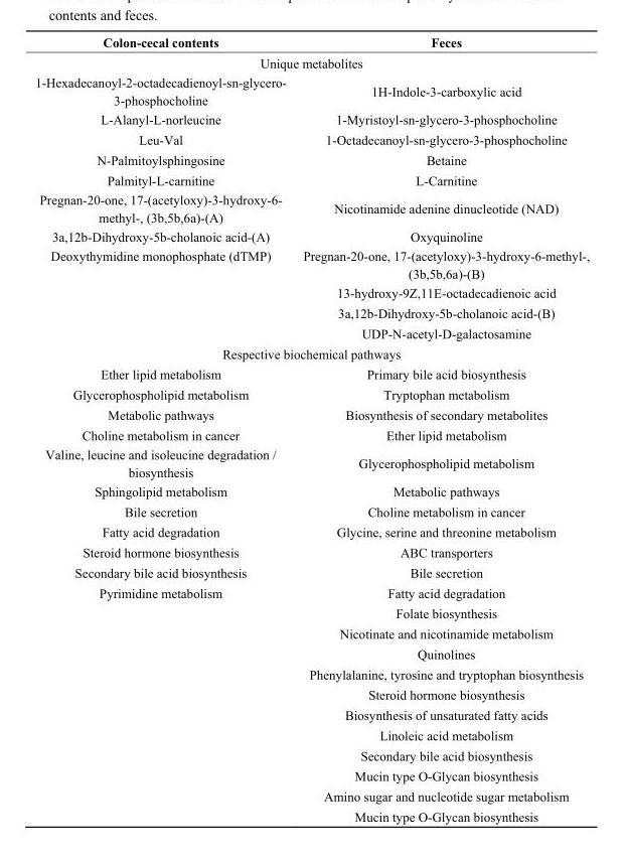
<table><thead><tr><td>Colon-cecal contents</td><td>Feces</td></tr></thead><tbody><tr><td colspan="2">Unique metabolites</td></tr><tr><td>1-Hexadecanoyl-2-octadecadienoyl-sn-glycero- 3-phosphocholine</td><td>1H-Indole-3-carboxylic acid</td></tr><tr><td>L-Alanyl-L-norleucine</td><td>1-Myristoyl-sn-glycero-3-phosphocholine</td></tr><tr><td>Leu-Val</td><td>1-Octadecanoyl-sn-glycero-3-phosphocholine</td></tr><tr><td>N-Palmitoylsphingosine</td><td>Betaine</td></tr><tr><td>Palmityl-L-carnitine</td><td>L-Carnitine</td></tr><tr><td>Pregnan-20-one, 17-(acetyloxy)-3-hydroxy-6- methyl-, (3b,5b,6a)-(A)</td><td>Nicotinamide adenine dinucleotide (NAD)</td></tr><tr><td>3a,12b-Dihydroxy-5b-cholanoic acid-(A)</td><td>Oxyquinoline</td></tr><tr><td rowspan="4">Deoxythymidine monophosphate (dTMP)</td><td>Pregnan-20-one, 17-(acetyloxy)-3-hydroxy-6-methyl-, (3b,5b,6a)-(B)</td></tr><tr><td>13-hydroxy-9Z,11E-octadecadienoic acid</td></tr><tr><td>3a,12b-Dihydroxy-5b-cholanoic acid-(B)</td></tr><tr><td>UDP-N-acetyl-D-galactosamine</td></tr><tr><td colspan="2">Respective biochemical pathways</td></tr><tr><td>Ether lipid metabolism</td><td>Primary bile acid biosynthesis</td></tr><tr><td>Glycerophospholipid metabolism</td><td>Tryptophan metabolism</td></tr><tr><td>Metabolic pathways</td><td>Biosynthesis of secondary metabolites</td></tr><tr><td>Choline metabolism in cancer</td><td>Ether lipid metabolism</td></tr><tr><td>Valine, leucine and isoleucine degradation / biosynthesis</td><td>Glycerophospholipid metabolism</td></tr><tr><td>Sphingolipid metabolism</td><td>Metabolic pathways</td></tr><tr><td>Bile secretion</td><td>Choline metabolism in cancer</td></tr><tr><td>Fatty acid degradation</td><td>Glycine, serine and threonine metabolism</td></tr><tr><td>Steroid hormone biosynthesis</td><td>ABC transporters</td></tr><tr><td>Secondary bile acid biosynthesis</td><td>Bile secretion</td></tr><tr><td rowspan="12">Pyrimidine metabolism</td><td>Fatty acid degradation</td></tr><tr><td>Folate biosynthesis</td></tr><tr><td>Nicotinate and nicotinamide metabolism</td></tr><tr><td>Quinolines</td></tr><tr><td>Phenylalanine, tyrosine and tryptophan biosynthesis</td></tr><tr><td>Steroid hormone biosynthesis</td></tr><tr><td>Biosynthesis of unsaturated fatty acids</td></tr><tr><td>Linoleic acid metabolism</td></tr><tr><td>Secondary bile acid biosynthesis</td></tr><tr><td>Mucin type O-Glycan biosynthesis</td></tr><tr><td>Amino sugar and nucleotide sugar metabolism</td></tr><tr><td>Mucin type O-Glycan biosynthesis</td></tr></tbody></table>